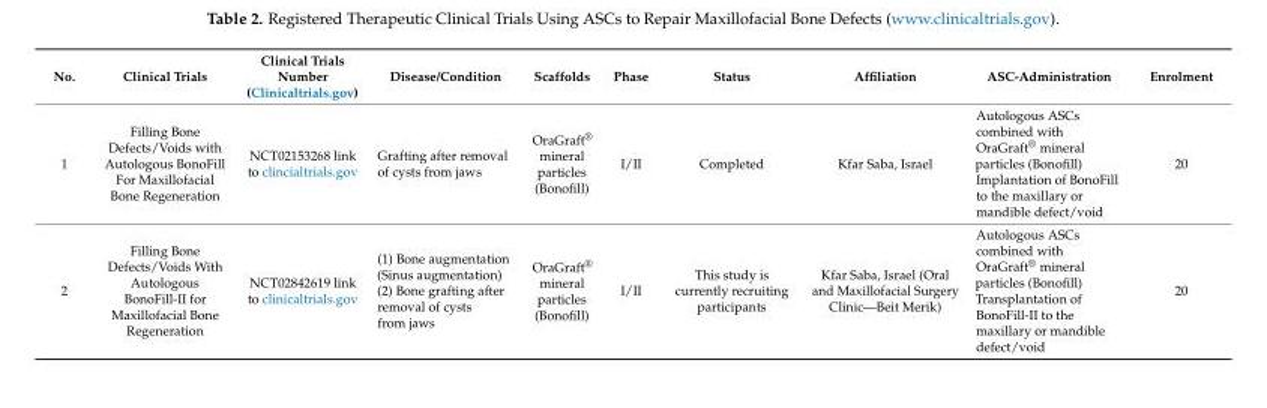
<table><thead><tr><td>No.</td><td>Clinical Trials</td><td>Clinical Trials Number (Clinicaltrials.gov)</td><td>Disease/Condition</td><td>Scaffolds</td><td>Phase</td><td>Status</td><td>Affiliation</td><td>ASC-Administration</td><td>Enrolment</td></tr></thead><tbody><tr><td>1</td><td>Filling Bone Defects/Voids with Autologous BonoFill For Maxillofacial Bone Regeneration</td><td>NCT02153268 link to clincialtrials.gov</td><td>Grafting after removal of cysts from jaws</td><td>OraGraft<sup>®</sup> mineral particles (Bonofill)</td><td>I/II</td><td>Completed</td><td>Kfar Saba, Israel</td><td>Autologous ASCs combined with OraGraft<sup>®</sup> mineral particles (Bonofill) Implantation of BonoFill to the maxillary or mandible defect/void</td><td>20</td></tr><tr><td>2</td><td>Filling Bone Defects/Voids With Autologous BonoFill-II for Maxillofacial Bone Regeneration</td><td>NCT02842619 link to clinicaltrials.gov</td><td>(1) Bone augmentation (Sinus augmentation) (2) Bone grafting after removal of cysts from jaws</td><td>OraGraft<sup>®</sup> mineral particles (Bonofill)</td><td>I/II</td><td>This study is currently recruiting participants</td><td>Kfar Saba, Israel (Oral and Maxillofacial Surgery Clinic—Beit Merik)</td><td>Autologous ASCs combined with OraGraft<sup>®</sup> mineral particles (Bonofill) Transplantation of BonoFill-II to the maxillary or mandible defect/void</td><td>20</td></tr></tbody></table>